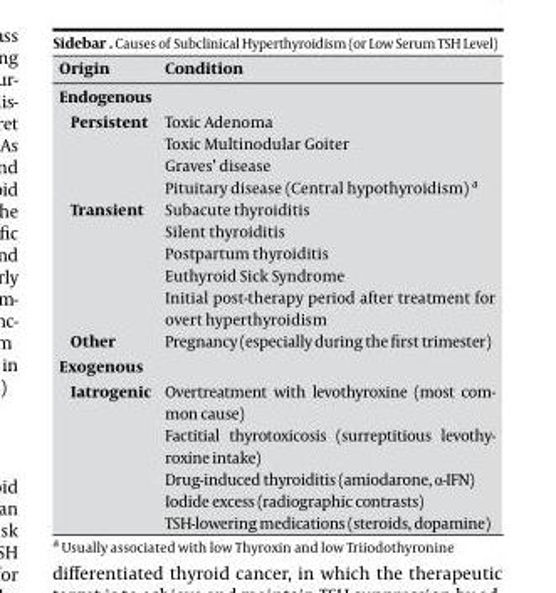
<table><thead><tr><td>Origin</td><td>Condition</td></tr></thead><tbody><tr><td colspan="2">Endogenous</td></tr><tr><td rowspan="4">Persistent</td><td>Toxic Adenoma</td></tr><tr><td>Toxic Multinodular Goiter</td></tr><tr><td>Graves’ disease</td></tr><tr><td>Pituitary disease (Central hypothyroidism) a</td></tr><tr><td rowspan="5">Transient</td><td>Subacute thyroiditis</td></tr><tr><td>Silent thyroiditis</td></tr><tr><td>Postpartum thyroiditis</td></tr><tr><td>Euthyroid Sick Syndrome</td></tr><tr><td>Initial post-therapy period after treatment for overt hyperthyroidism</td></tr><tr><td>Other</td><td>Pregnancy (especially during the first trimester)</td></tr><tr><td colspan="2">Exogenous</td></tr><tr><td rowspan="5">Iatrogenic</td><td>Overtreatment with levothyroxine (most com- mon cause)</td></tr><tr><td>Factitial thyrotoxicosis (surreptitious levothy- roxine intake)</td></tr><tr><td>Drug-induced thyroiditis (amiodarone, α-IFN)</td></tr><tr><td>Iodide excess (radiographic contrasts)</td></tr><tr><td>TSH-lowering medications (steroids, dopamine)</td></tr></tbody></table>